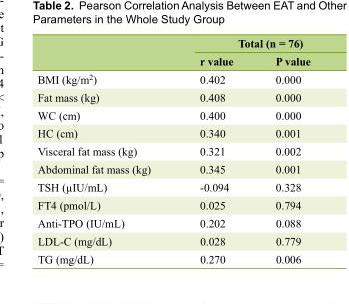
<table><thead><tr><td rowspan="2"></td><td colspan="2">Total (n = 76)</td></tr><tr><td>r value</td><td>P value</td></tr></thead><tbody><tr><td>BMI (kg/m<sup>2</sup>)</td><td>0.402</td><td>0.000</td></tr><tr><td>Fat mass (kg)</td><td>0.408</td><td>0.000</td></tr><tr><td>WC (cm)</td><td>0.400</td><td>0.000</td></tr><tr><td>HC (cm)</td><td>0.340</td><td>0.001</td></tr><tr><td>Visceral fat mass (kg)</td><td>0.321</td><td>0.002</td></tr><tr><td>Abdominal fat mass (kg)</td><td>0.345</td><td>0.001</td></tr><tr><td>TSH (µIU/mL)</td><td>-0.094</td><td>0.328</td></tr><tr><td>FT4 (pmol/L)</td><td>0.025</td><td>0.794</td></tr><tr><td>Anti-TPO (IU/mL)</td><td>0.202</td><td>0.088</td></tr><tr><td>LDL-C (mg/dL)</td><td>0.028</td><td>0.779</td></tr><tr><td>TG (mg/dL)</td><td>0.270</td><td>0.006</td></tr></tbody></table>